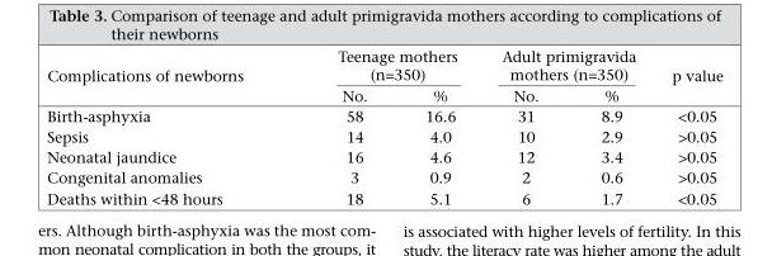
<table><thead><tr><td rowspan="2">Complications of newborns</td><td colspan="2">Teenage mothers (n=350)</td><td colspan="2">Adult primigravida mothers (n=350)</td><td rowspan="2">p value</td></tr><tr><td>No.</td><td>%</td><td>No.</td><td>%</td></tr></thead><tbody><tr><td>Birth-asphyxia</td><td>58</td><td>16.6</td><td>31</td><td>8.9</td><td>&lt;0.05</td></tr><tr><td>Sepsis</td><td>14</td><td>4.0</td><td>10</td><td>2.9</td><td>&gt;0.05</td></tr><tr><td>Neonatal jaundice</td><td>16</td><td>4.6</td><td>12</td><td>3.4</td><td>&gt;0.05</td></tr><tr><td>Congenital anomalies</td><td>3</td><td>0.9</td><td>2</td><td>0.6</td><td>&gt;0.05</td></tr><tr><td>Deaths within &lt;48 hours</td><td>18</td><td>5.1</td><td>6</td><td>1.7</td><td>&lt;0.05</td></tr></tbody></table>